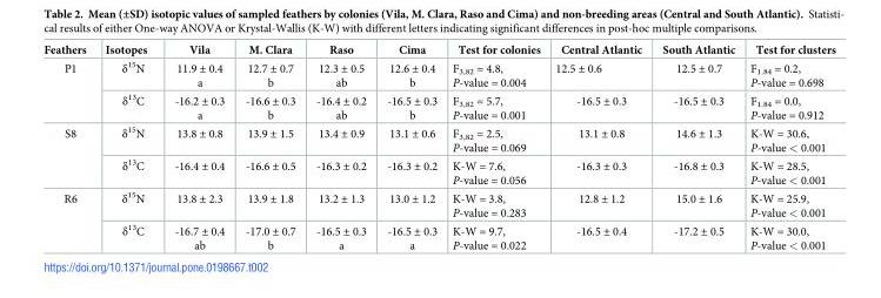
<table><thead><tr><td>Feathers</td><td>Isotopes</td><td>Vila</td><td>M. Clara</td><td>Raso</td><td>Cima</td><td>Test for colonies</td><td>Central Atlantic</td><td>South Atlantic</td><td>Test for clusters</td></tr></thead><tbody><tr><td rowspan="2">P1</td><td>δ<sup>15</sup>N</td><td>11.9 ± 0.4 a</td><td>12.7 ± 0.7 b</td><td>12.3 ± 0.5 ab</td><td>12.6 ± 0.4 b</td><td>F<sub>3,82</sub> = 4.8, P-value = 0.004</td><td>12.5 ± 0.6</td><td>12.5 ± 0.7</td><td>F<sub>1.84</sub> = 0.2, P-value = 0.698</td></tr><tr><td>δ<sup>13</sup>C</td><td>-16.2 ± 0.3 a</td><td>-16.6 ± 0.3 b</td><td>-16.4 ± 0.2 ab</td><td>-16.5 ± 0.3 b</td><td>F<sub>3,82</sub> = 5.7, P-value = 0.001</td><td>-16.5 ± 0.3</td><td>-16.5 ± 0.3</td><td>F<sub>1.84</sub> = 0.0, P-value = 0.912</td></tr><tr><td rowspan="2">S8</td><td>δ<sup>15</sup>N</td><td>13.8 ± 0.8</td><td>13.9 ± 1.5</td><td>13.4 ± 0.9</td><td>13.1 ± 0.6</td><td>F<sub>3,82</sub> = 2.5, P-value = 0.069</td><td>13.1 ± 0.8</td><td>14.6 ± 1.3</td><td>K-W = 30.6, P-value &lt; 0.001</td></tr><tr><td>δ<sup>13</sup>C</td><td>-16.4 ± 0.4</td><td>-16.6 ± 0.5</td><td>-16.3 ± 0.2</td><td>-16.3 ± 0.2</td><td>K-W = 7.6, P-value = 0.056</td><td>-16.3 ± 0.3</td><td>-16.8 ± 0.3</td><td>K-W = 28.5, P-value &lt; 0.001</td></tr><tr><td rowspan="2">R6</td><td>δ<sup>15</sup>N</td><td>13.8 ± 2.3</td><td>13.9 ± 1.8</td><td>13.2 ± 1.3</td><td>13.0 ± 1.2</td><td>K-W = 3.8, P-value = 0.283</td><td>12.8 ± 1.2</td><td>15.0 ± 1.6</td><td>K-W = 25.9, P-value &lt; 0.001</td></tr><tr><td>δ<sup>13</sup>C</td><td>-16.7 ± 0.4 ab</td><td>-17.0 ± 0.7 b</td><td>-16.5 ± 0.3 a</td><td>-16.5 ± 0.3 a</td><td>K-W = 9.7, P-value = 0.022</td><td>-16.5 ± 0.4</td><td>-17.2 ± 0.5</td><td>K-W = 30.0, P-value &lt; 0.001</td></tr></tbody></table>